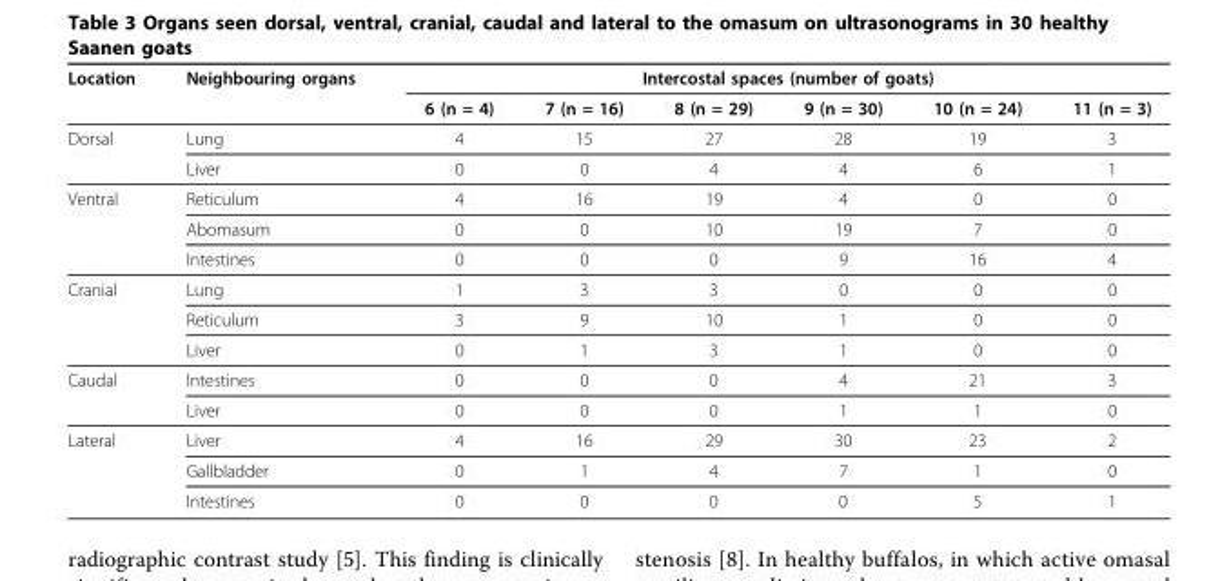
<table><thead><tr><td rowspan="2">Location</td><td rowspan="2">Neighbouring organs</td><td colspan="6">Intercostal spaces (number of goats)</td></tr><tr><td>6 (n = 4)</td><td>7 (n = 16)</td><td>8 (n = 29)</td><td>9 (n = 30)</td><td>10 (n = 24)</td><td>11 (n = 3)</td></tr></thead><tbody><tr><td rowspan="2">Dorsal</td><td>Lung</td><td>4</td><td>15</td><td>27</td><td>28</td><td>19</td><td>3</td></tr><tr><td>Liver</td><td>0</td><td>0</td><td>4</td><td>4</td><td>6</td><td>1</td></tr><tr><td rowspan="3">Ventral</td><td>Reticulum</td><td>4</td><td>16</td><td>19</td><td>4</td><td>0</td><td>0</td></tr><tr><td>Abomasum</td><td>0</td><td>0</td><td>10</td><td>19</td><td>7</td><td>0</td></tr><tr><td>Intestines</td><td>0</td><td>0</td><td>0</td><td>9</td><td>16</td><td>4</td></tr><tr><td rowspan="3">Cranial</td><td>Lung</td><td>1</td><td>3</td><td>3</td><td>0</td><td>0</td><td>0</td></tr><tr><td>Reticulum</td><td>3</td><td>9</td><td>10</td><td>1</td><td>0</td><td>0</td></tr><tr><td>Liver</td><td>0</td><td>1</td><td>3</td><td>1</td><td>0</td><td>0</td></tr><tr><td rowspan="2">Caudal</td><td>Intestines</td><td>0</td><td>0</td><td>0</td><td>4</td><td>21</td><td>3</td></tr><tr><td>Liver</td><td>0</td><td>0</td><td>0</td><td>1</td><td>1</td><td>0</td></tr><tr><td rowspan="3">Lateral</td><td>Liver</td><td>4</td><td>16</td><td>29</td><td>30</td><td>23</td><td>2</td></tr><tr><td>Gallbladder</td><td>0</td><td>1</td><td>4</td><td>7</td><td>1</td><td>0</td></tr><tr><td>Intestines</td><td>0</td><td>0</td><td>0</td><td>0</td><td>5</td><td>1</td></tr></tbody></table>